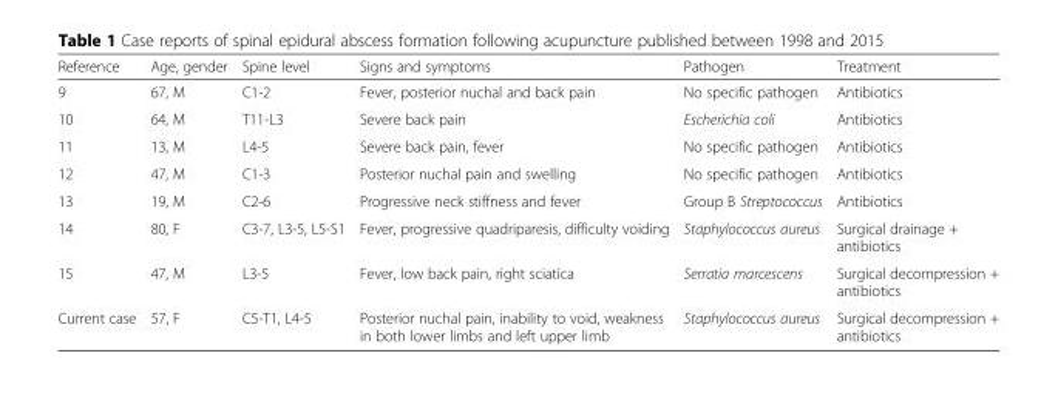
<table><thead><tr><td>Reference</td><td>Age, gender</td><td>Spine level</td><td>Signs and symptoms</td><td>Pathogen</td><td>Treatment</td></tr></thead><tbody><tr><td>9</td><td>67, M</td><td>C1-2</td><td>Fever, posterior nuchal and back pain</td><td>No specific pathogen</td><td>Antibiotics</td></tr><tr><td>10</td><td>64, M</td><td>T11-L3</td><td>Severe back pain</td><td>Escherichia coli</td><td>Antibiotics</td></tr><tr><td>11</td><td>13, M</td><td>L4-5</td><td>Severe back pain, fever</td><td>No specific pathogen</td><td>Antibiotics</td></tr><tr><td>12</td><td>47, M</td><td>C1-3</td><td>Posterior nuchal pain and swelling</td><td>No specific pathogen</td><td>Antibiotics</td></tr><tr><td>13</td><td>19, M</td><td>C2-6</td><td>Progressive neck stiffness and fever</td><td>Group B Streptococcus</td><td>Antibiotics</td></tr><tr><td>14</td><td>80, F</td><td>C3-7, L3-5, L5-S1</td><td>Fever, progressive quadriparesis, difficulty voiding</td><td>Staphylococcus aureus</td><td>Surgical drainage + antibiotics</td></tr><tr><td>15</td><td>47, M</td><td>L3-5</td><td>Fever, low back pain, right sciatica</td><td>Serratia marcescens</td><td>Surgical decompression + antibiotics</td></tr><tr><td>Current case</td><td>57, F</td><td>C5-T1, L4-5</td><td>Posterior nuchal pain, inability to void, weakness in both lower limbs and left upper limb</td><td>Staphylococcus aureus</td><td>Surgical decompression + antibiotics</td></tr></tbody></table>